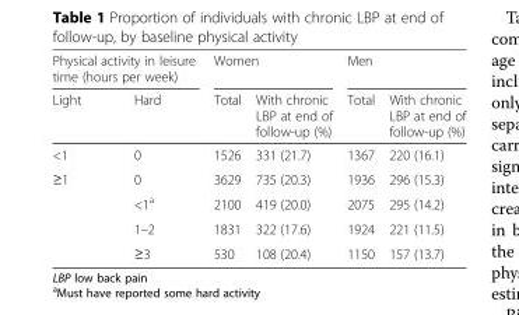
<table><thead><tr><td colspan="2">Physical activity in leisure time (hours per week)</td><td colspan="2">Women</td><td colspan="2">Men</td></tr><tr><td>Light</td><td>Hard</td><td>Total</td><td>With chronic LBP at end of follow-up (%)</td><td>Total</td><td>With chronic LBP at end of follow-up (%)</td></tr></thead><tbody><tr><td>&lt;1</td><td>0</td><td>1526</td><td>331 (21.7)</td><td>1367</td><td>220 (16.1)</td></tr><tr><td rowspan="4">≥1</td><td>0</td><td>3629</td><td>735 (20.3)</td><td>1936</td><td>296 (15.3)</td></tr><tr><td>&lt;1<sup>a</sup></td><td>2100</td><td>419 (20.0)</td><td>2075</td><td>295 (14.2)</td></tr><tr><td>1–2</td><td>1831</td><td>322 (17.6)</td><td>1924</td><td>221 (11.5)</td></tr><tr><td>≥3</td><td>530</td><td>108 (20.4)</td><td>1150</td><td>157 (13.7)</td></tr></tbody></table>